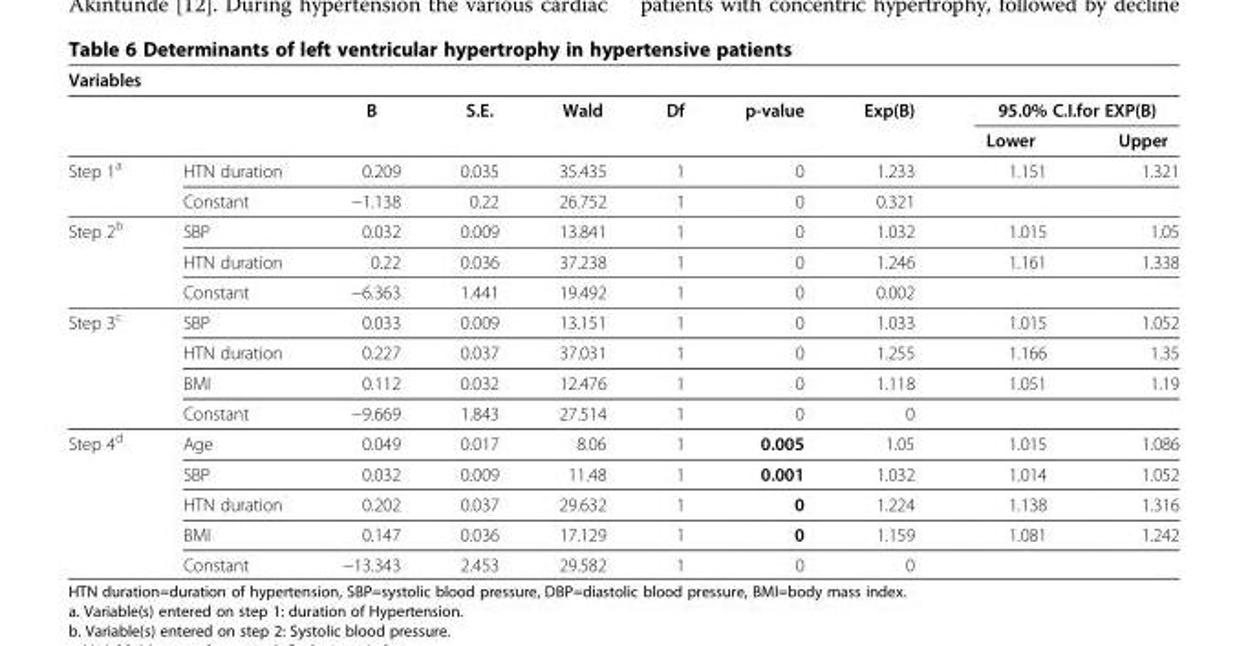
<table><thead><tr><td colspan="10">Variables</td></tr><tr><td rowspan="2"></td><td rowspan="2"></td><td rowspan="2">B</td><td rowspan="2">S.E.</td><td rowspan="2">Wald</td><td rowspan="2">Df</td><td rowspan="2">p-value</td><td rowspan="2">Exp(B)</td><td colspan="2">95.0% C.I.for EXP(B)</td></tr><tr><td>Lower</td><td>Upper</td></tr></thead><tbody><tr><td rowspan="2">Step 1<sup>a</sup></td><td>HTN duration</td><td>0.209</td><td>0.035</td><td>35.435</td><td>1</td><td>0</td><td>1.233</td><td>1.151</td><td>1.321</td></tr><tr><td>Constant</td><td>−1.138</td><td>0.22</td><td>26.752</td><td>1</td><td>0</td><td>0.321</td><td></td><td></td></tr><tr><td rowspan="3">Step 2<sup>b</sup></td><td>SBP</td><td>0.032</td><td>0.009</td><td>13.841</td><td>1</td><td>0</td><td>1.032</td><td>1.015</td><td>1.05</td></tr><tr><td>HTN duration</td><td>0.22</td><td>0.036</td><td>37.238</td><td>1</td><td>0</td><td>1.246</td><td>1.161</td><td>1.338</td></tr><tr><td>Constant</td><td>−6.363</td><td>1.441</td><td>19.492</td><td>1</td><td>0</td><td>0.002</td><td></td><td></td></tr><tr><td rowspan="4">Step 3<sup>c</sup></td><td>SBP</td><td>0.033</td><td>0.009</td><td>13.151</td><td>1</td><td>0</td><td>1.033</td><td>1.015</td><td>1.052</td></tr><tr><td>HTN duration</td><td>0.227</td><td>0.037</td><td>37.031</td><td>1</td><td>0</td><td>1.255</td><td>1.166</td><td>1.35</td></tr><tr><td>BMI</td><td>0.112</td><td>0.032</td><td>12.476</td><td>1</td><td>0</td><td>1.118</td><td>1.051</td><td>1.19</td></tr><tr><td>Constant</td><td>−9.669</td><td>1.843</td><td>27.514</td><td>1</td><td>0</td><td>0</td><td></td><td></td></tr><tr><td rowspan="5">Step 4<sup>d</sup></td><td>Age</td><td>0.049</td><td>0.017</td><td>8.06</td><td>1</td><td>0.005</td><td>1.05</td><td>1.015</td><td>1.086</td></tr><tr><td>SBP</td><td>0.032</td><td>0.009</td><td>11.48</td><td>1</td><td>0.001</td><td>1.032</td><td>1.014</td><td>1.052</td></tr><tr><td>HTN duration</td><td>0.202</td><td>0.037</td><td>29.632</td><td>1</td><td>0</td><td>1.224</td><td>1.138</td><td>1.316</td></tr><tr><td>BMI</td><td>0.147</td><td>0.036</td><td>17.129</td><td>1</td><td>0</td><td>1.159</td><td>1.081</td><td>1.242</td></tr><tr><td>Constant</td><td>−13.343</td><td>2.453</td><td>29.582</td><td>1</td><td>0</td><td>0</td><td></td><td></td></tr></tbody></table>